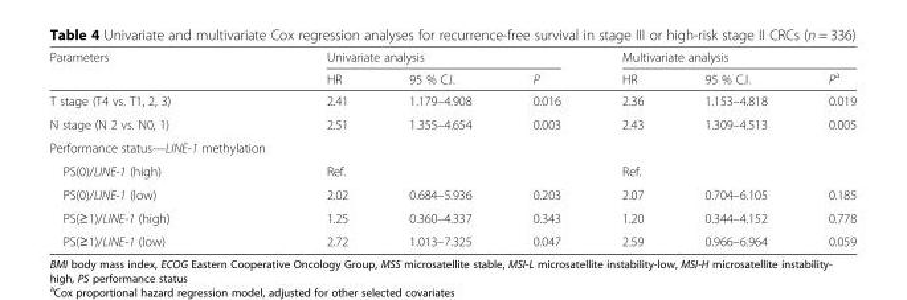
<table><thead><tr><td rowspan="2">Parameters</td><td colspan="3">Univariate analysis</td><td colspan="3">Multivariate analysis</td></tr><tr><td>HR</td><td>95 % C.I.</td><td>P</td><td>HR</td><td>95 % C.I.</td><td>P<sup>a</sup></td></tr></thead><tbody><tr><td>T stage (T4 vs. T1, 2, 3)</td><td>2.41</td><td>1.179–4.908</td><td>0.016</td><td>2.36</td><td>1.153–4.818</td><td>0.019</td></tr><tr><td>N stage (N 2 vs. N0, 1)</td><td>2.51</td><td>1.355–4.654</td><td>0.003</td><td>2.43</td><td>1.309–4.513</td><td>0.005</td></tr><tr><td colspan="7">Performance status—LINE-1 methylation</td></tr><tr><td>PS(0)/LINE-1 (high)</td><td>Ref.</td><td></td><td></td><td>Ref.</td><td></td><td></td></tr><tr><td>PS(0)/LINE-1 (low)</td><td>2.02</td><td>0.684–5.936</td><td>0.203</td><td>2.07</td><td>0.704–6.105</td><td>0.185</td></tr><tr><td>PS(≥1)/LINE-1 (high)</td><td>1.25</td><td>0.360–4.337</td><td>0.343</td><td>1.20</td><td>0.344–4.152</td><td>0.778</td></tr><tr><td>PS(≥1)/LINE-1 (low)</td><td>2.72</td><td>1.013–7.325</td><td>0.047</td><td>2.59</td><td>0.966–6.964</td><td>0.059</td></tr></tbody></table>